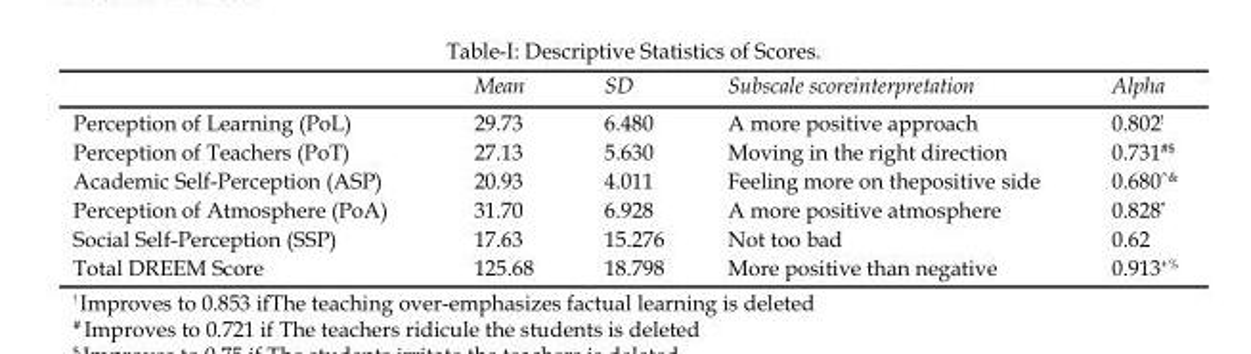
<table><thead><tr><td></td><td>Mean</td><td>SD</td><td>Subscale scoreinterpretation</td><td>Alpha</td></tr></thead><tbody><tr><td>Perception of Learning (PoL)</td><td>29.73</td><td>6.480</td><td>A more positive approach</td><td>0.802<sup>!</sup></td></tr><tr><td>Perception of Teachers (PoT)</td><td>27.13</td><td>5.630</td><td>Moving in the right direction</td><td>0.731<sup>#$</sup></td></tr><tr><td>Academic Self-Perception (ASP)</td><td>20.93</td><td>4.011</td><td>Feeling more on thepositive side</td><td>0.680^&amp;</td></tr><tr><td>Perception of Atmosphere (PoA)</td><td>31.70</td><td>6.928</td><td>A more positive atmosphere</td><td>0.828*</td></tr><tr><td>Social Self-Perception (SSP)</td><td>17.63</td><td>15.276</td><td>Not too bad</td><td>0.62</td></tr><tr><td>Total DREEM Score</td><td>125.68</td><td>18.798</td><td>More positive than negative</td><td>0.913<sup>+%</sup></td></tr></tbody></table>